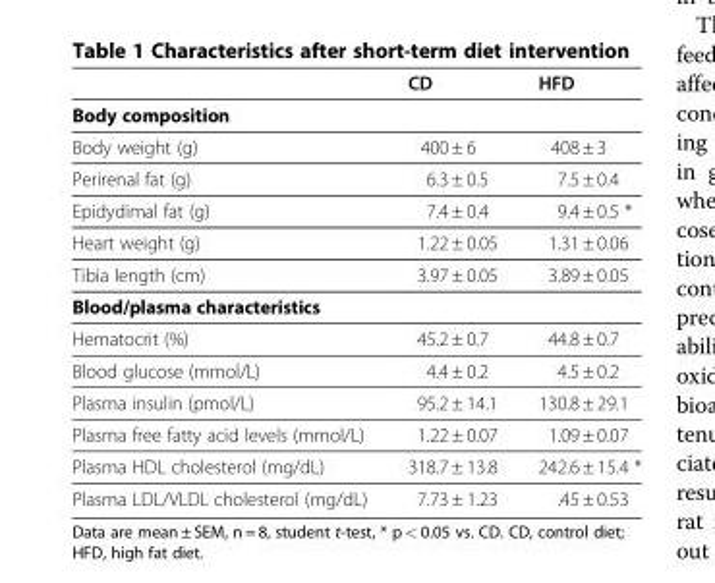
<table><thead><tr><td></td><td>CD</td><td>HFD</td></tr></thead><tbody><tr><td colspan="3">Body composition</td></tr><tr><td>Body weight (g)</td><td>400 ± 6</td><td>408 ± 3</td></tr><tr><td>Perirenal fat (g)</td><td>6.3 ± 0.5</td><td>7.5 ± 0.4</td></tr><tr><td>Epidydimal fat (g)</td><td>7.4 ± 0.4</td><td>9.4 ± 0.5 *</td></tr><tr><td>Heart weight (g)</td><td>1.22 ± 0.05</td><td>1.31 ± 0.06</td></tr><tr><td>Tibia length (cm)</td><td>3.97 ± 0.05</td><td>3.89 ± 0.05</td></tr><tr><td colspan="3">Blood/plasma characteristics</td></tr><tr><td>Hematocrit (%)</td><td>45.2 ± 0.7</td><td>44.8 ± 0.7</td></tr><tr><td>Blood glucose (mmol/L)</td><td>4.4 ± 0.2</td><td>4.5 ± 0.2</td></tr><tr><td>Plasma insulin (pmol/L)</td><td>95.2 ± 14.1</td><td>130.8 ± 29.1</td></tr><tr><td>Plasma free fatty acid levels (mmol/L)</td><td>1.22 ± 0.07</td><td>1.09 ± 0.07</td></tr><tr><td>Plasma HDL cholesterol (mg/dL)</td><td>318.7 ± 13.8</td><td>242.6 ± 15.4 *</td></tr><tr><td>Plasma LDL/VLDL cholesterol (mg/dL)</td><td>7.73 ± 1.23</td><td>.45 ± 0.53</td></tr></tbody></table>